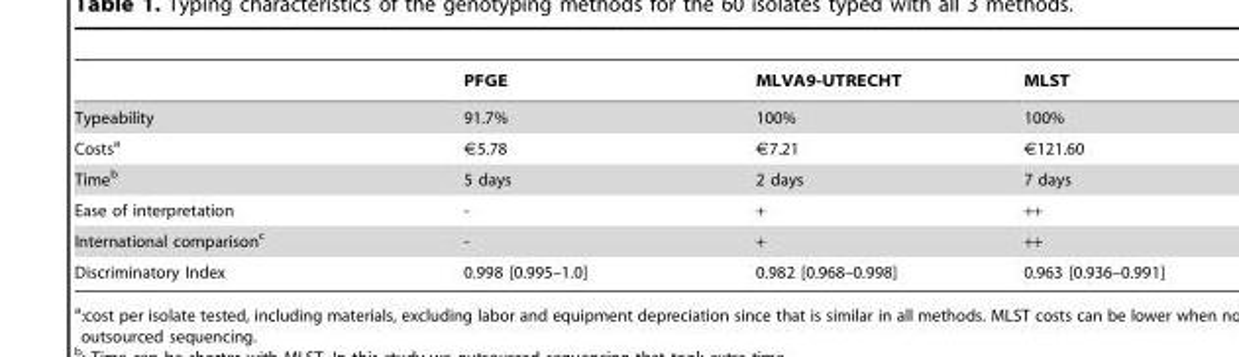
<table><thead><tr><td></td><td>PFGE</td><td>MLVA9-UTRECHT</td><td>MLST</td></tr></thead><tbody><tr><td>Typeability</td><td>91.7%</td><td>100%</td><td>100%</td></tr><tr><td>Costs<sup>a</sup></td><td>€5.78</td><td>€7.21</td><td>€121.60</td></tr><tr><td>Time<sup>b</sup></td><td>5 days</td><td>2 days</td><td>7 days</td></tr><tr><td>Ease of interpretation</td><td>-</td><td>+</td><td>++</td></tr><tr><td>International comparison<sup>c</sup></td><td>-</td><td>+</td><td>++</td></tr><tr><td>Discriminatory Index</td><td>0.998 [0.995–1.0]</td><td>0.982 [0.968–0.998]</td><td>0.963 [0.936–0.991]</td></tr></tbody></table>